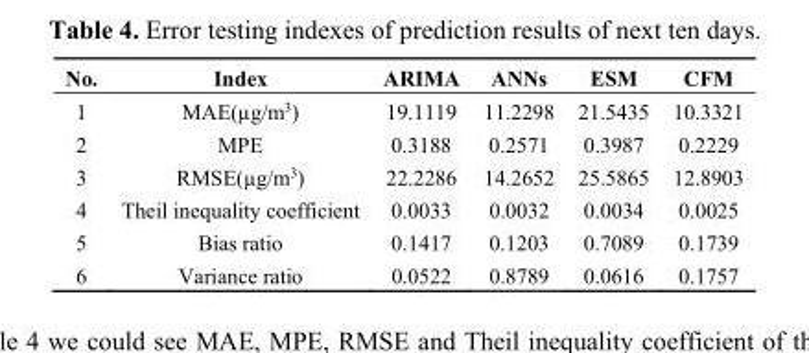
<table><thead><tr><td>No.</td><td>Index</td><td>ARIMA</td><td>ANNs</td><td>ESM</td><td>CFM</td></tr></thead><tbody><tr><td>1</td><td>MAE(µg/m<sup>3</sup>)</td><td>19.1119</td><td>11.2298</td><td>21.5435</td><td>10.3321</td></tr><tr><td>2</td><td>MPE</td><td>0.3188</td><td>0.2571</td><td>0.3987</td><td>0.2229</td></tr><tr><td>3</td><td>RMSE(µg/m<sup>3</sup>)</td><td>22.2286</td><td>14.2652</td><td>25.5865</td><td>12.8903</td></tr><tr><td>4</td><td>Theil inequality coefficient</td><td>0.0033</td><td>0.0032</td><td>0.0034</td><td>0.0025</td></tr><tr><td>5</td><td>Bias ratio</td><td>0.1417</td><td>0.1203</td><td>0.7089</td><td>0.1739</td></tr><tr><td>6</td><td>Variance ratio</td><td>0.0522</td><td>0.8789</td><td>0.0616</td><td>0.1757</td></tr></tbody></table>